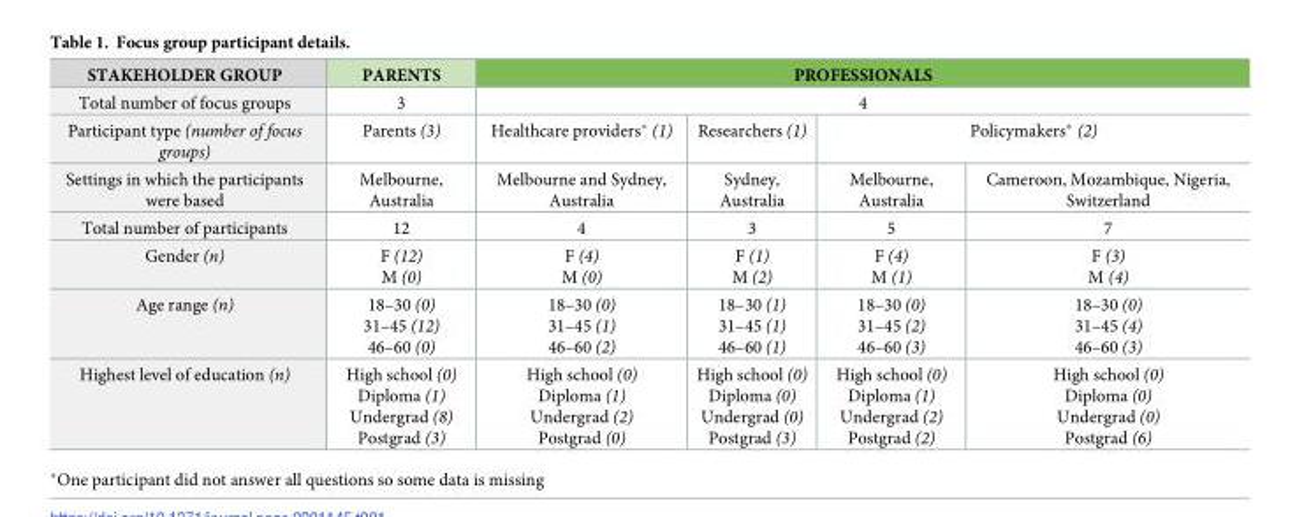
<table><thead><tr><td rowspan="4">STAKEHOLDER GROUP Total number of focus groups Participant type (number of focus groups) Settings in which the participants were based</td><td rowspan="4">PARENTS 3 Parents (3) Melbourne, Australia</td><td rowspan="2" colspan="4">PROFESSIONALS 4</td></tr><tr></tr><tr><td rowspan="2">Healthcare providers* (1) Melbourne and Sydney, Australia</td><td rowspan="2">Researchers (1) Sydney, Australia</td><td colspan="2">Policymakers* (2)</td></tr><tr><td>Melbourne, Australia</td><td>Cameroon, Mozambique, Nigeria, Switzerland</td></tr></thead><tbody><tr><td>Total number of participants</td><td>12</td><td>4</td><td>3</td><td>5</td><td>7</td></tr><tr><td>Gender (n)</td><td>F (12) M (0)</td><td>F (4) M (0)</td><td>F (1) M (2)</td><td>F (4) M (1)</td><td>F (3) M (4)</td></tr><tr><td>Age range (n)</td><td>18–30 (0) 31–45 (12) 46–60 (0)</td><td>18–30 (0) 31–45 (1) 46–60 (2)</td><td>18–30 (1) 31–45 (1) 46–60 (1)</td><td>18–30 (0) 31–45 (2) 46–60 (3)</td><td>18–30 (0) 31–45 (4) 46–60 (3)</td></tr><tr><td>Highest level of education (n)</td><td>High school (0) Diploma (1) Undergrad (8) Postgrad (3)</td><td>High school (0) Diploma (1) Undergrad (2) Postgrad (0)</td><td>High school (0) Diploma (0) Undergrad (0) Postgrad (3)</td><td>High school (0) Diploma (1) Undergrad (2) Postgrad (2)</td><td>High school (0) Diploma (0) Undergrad (0) Postgrad (6)</td></tr></tbody></table>